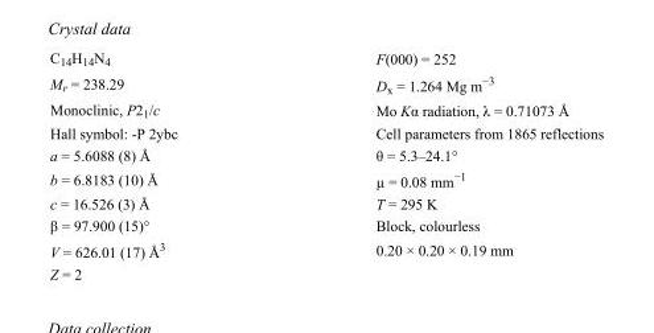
<table><tbody><tr><td>C<sub>14</sub>H<sub>14</sub>N<sub>4</sub></td><td>F(000) = 252</td></tr><tr><td>M<sub>r</sub> = 238.29</td><td>D<sub>x</sub> = 1.264 Mg m<sup>−3</sup></td></tr><tr><td>Monoclinic, P2<sub>1</sub>/c</td><td>Mo Kα radiation, λ = 0.71073 Å</td></tr><tr><td>Hall symbol: -P 2ybc</td><td>Cell parameters from 1865 reflections</td></tr><tr><td>a = 5.6088 (8) Å</td><td>θ = 5.3–24.1°</td></tr><tr><td>b = 6.8183 (10) Å</td><td>µ = 0.08 mm<sup>−1</sup></td></tr><tr><td>c = 16.526 (3) Å</td><td>T = 295 K</td></tr><tr><td>β = 97.900 (15)°</td><td>Block, colourless</td></tr><tr><td>V = 626.01 (17) Å<sup>3</sup></td><td>0.20 × 0.20 × 0.19 mm</td></tr><tr><td>Z = 2</td><td></td></tr></tbody></table>